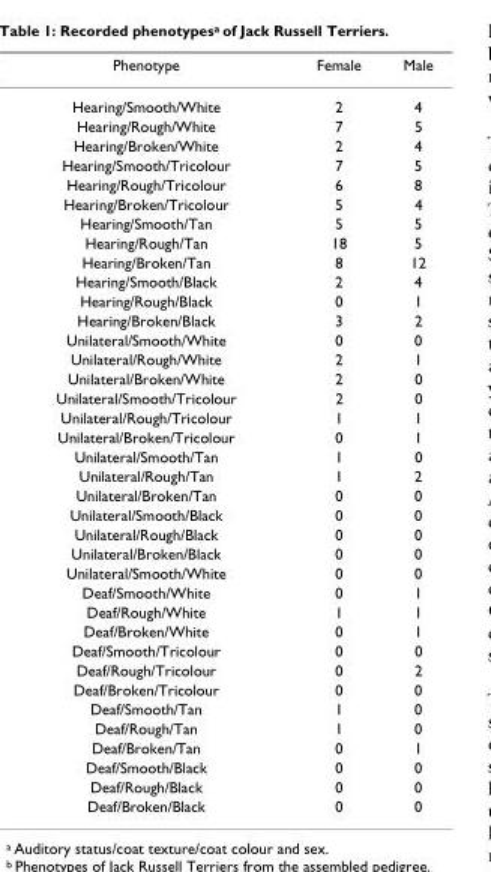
<table><thead><tr><td>Phenotype</td><td>Female</td><td>Male</td></tr></thead><tbody><tr><td>Hearing/Smooth/White</td><td>2</td><td>4</td></tr><tr><td>Hearing/Rough/White</td><td>7</td><td>5</td></tr><tr><td>Hearing/Broken/White</td><td>2</td><td>4</td></tr><tr><td>Hearing/Smooth/Tricolour</td><td>7</td><td>5</td></tr><tr><td>Hearing/Rough/Tricolour</td><td>6</td><td>8</td></tr><tr><td>Hearing/Broken/Tricolour</td><td>5</td><td>4</td></tr><tr><td>Hearing/Smooth/Tan</td><td>5</td><td>5</td></tr><tr><td>Hearing/Rough/Tan</td><td>18</td><td>5</td></tr><tr><td>Hearing/Broken/Tan</td><td>8</td><td>12</td></tr><tr><td>Hearing/Smooth/Black</td><td>2</td><td>4</td></tr><tr><td>Hearing/Rough/Black</td><td>0</td><td>1</td></tr><tr><td>Hearing/Broken/Black</td><td>3</td><td>2</td></tr><tr><td>Unilateral/Smooth/White</td><td>0</td><td>0</td></tr><tr><td>Unilateral/Rough/White</td><td>2</td><td>1</td></tr><tr><td>Unilateral/Broken/White</td><td>2</td><td>0</td></tr><tr><td>Unilateral/Smooth/Tricolour</td><td>2</td><td>0</td></tr><tr><td>Unilateral/Rough/Tricolour</td><td>1</td><td>1</td></tr><tr><td>Unilateral/Broken/Tricolour</td><td>0</td><td>1</td></tr><tr><td>Unilateral/Smooth/Tan</td><td>1</td><td>0</td></tr><tr><td>Unilateral/Rough/Tan</td><td>1</td><td>2</td></tr><tr><td>Unilateral/Broken/Tan</td><td>0</td><td>0</td></tr><tr><td>Unilateral/Smooth/Black</td><td>0</td><td>0</td></tr><tr><td>Unilateral/Rough/Black</td><td>0</td><td>0</td></tr><tr><td>Unilateral/Broken/Black</td><td>0</td><td>0</td></tr><tr><td>Unilateral/Smooth/White</td><td>0</td><td>0</td></tr><tr><td>Deaf/Smooth/White</td><td>0</td><td>1</td></tr><tr><td>Deaf/Rough/White</td><td>1</td><td>1</td></tr><tr><td>Deaf/Broken/White</td><td>0</td><td>1</td></tr><tr><td>Deaf/Smooth/Tricolour</td><td>0</td><td>0</td></tr><tr><td>Deaf/Rough/Tricolour</td><td>0</td><td>2</td></tr><tr><td>Deaf/Broken/Tricolour</td><td>0</td><td>0</td></tr><tr><td>Deaf/Smooth/Tan</td><td>1</td><td>0</td></tr><tr><td>Deaf/Rough/Tan</td><td>1</td><td>0</td></tr><tr><td>Deaf/Broken/Tan</td><td>0</td><td>1</td></tr><tr><td>Deaf/Smooth/Black</td><td>0</td><td>0</td></tr><tr><td>Deaf/Rough/Black</td><td>0</td><td>0</td></tr><tr><td>Deaf/Broken/Black</td><td>0</td><td>0</td></tr></tbody></table>